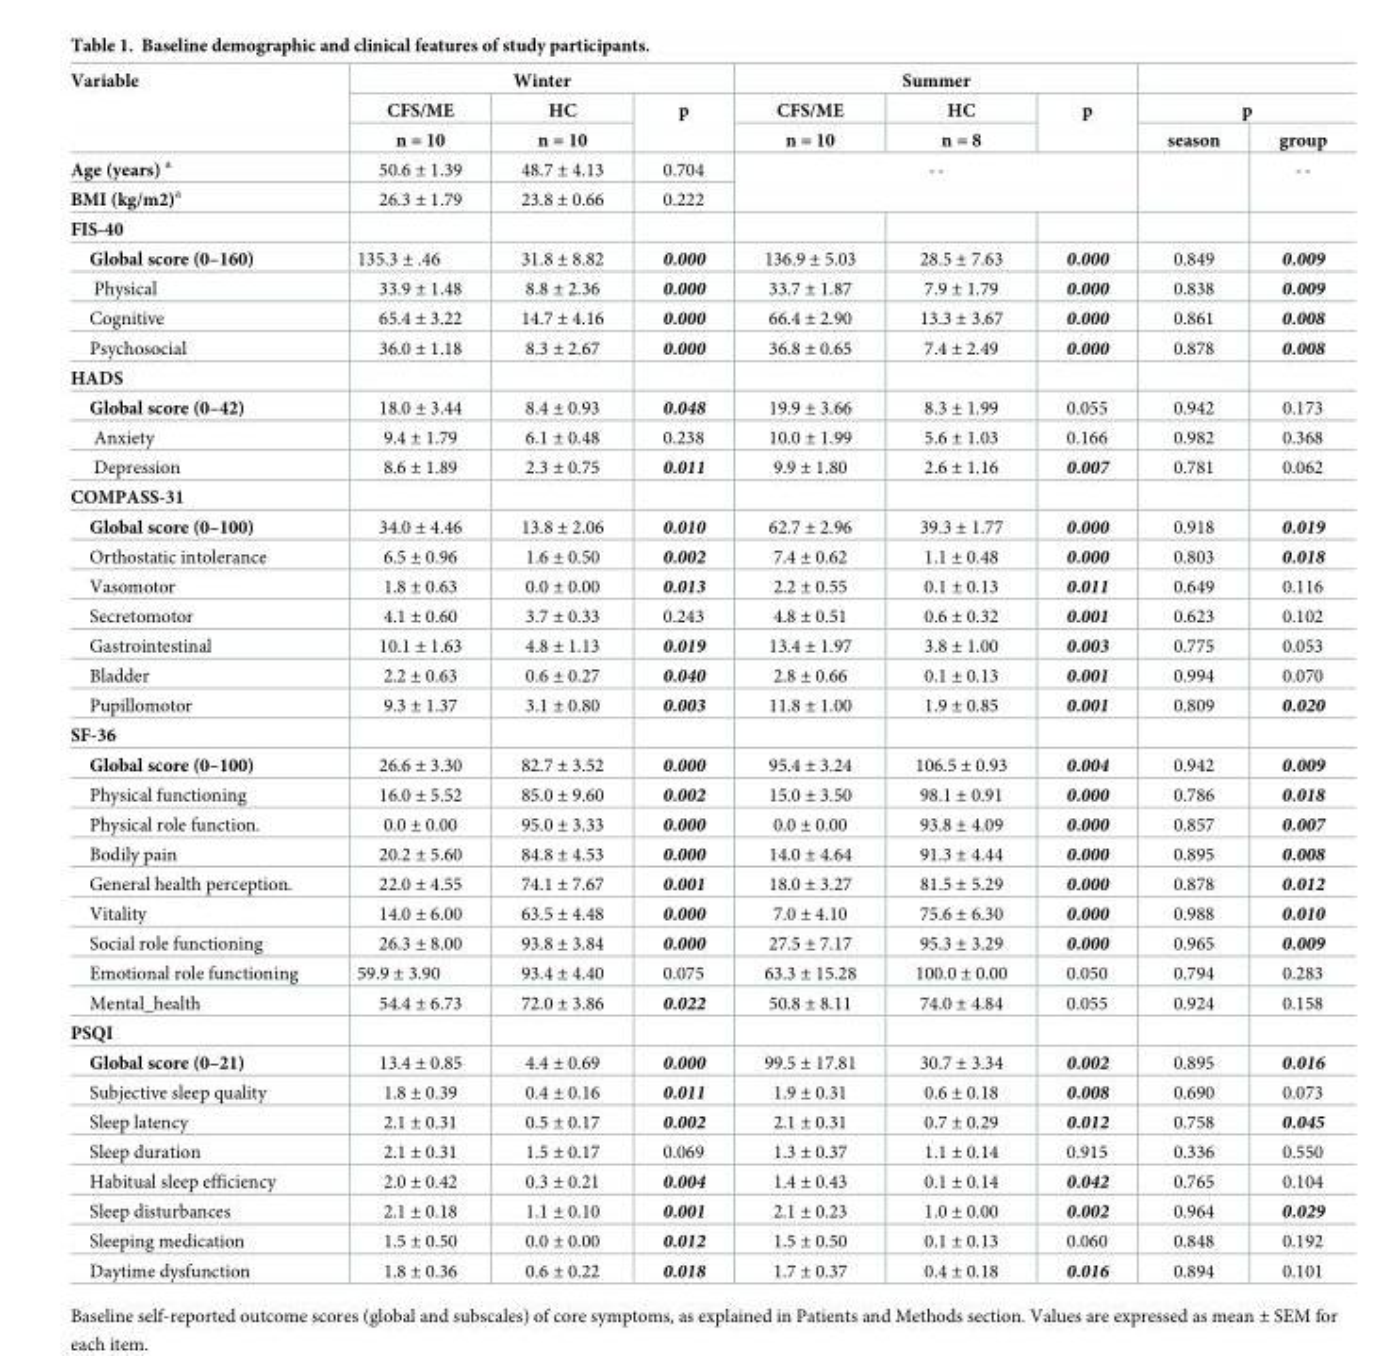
<table><thead><tr><td rowspan="3">Variable</td><td colspan="3">Winter</td><td colspan="3">Summer</td><td></td><td></td></tr><tr><td rowspan="2">CFS/ME n = 10</td><td rowspan="2">HC n = 10</td><td rowspan="2">p</td><td rowspan="2">CFS/ME n = 10</td><td rowspan="2">HC n = 8</td><td rowspan="2">p</td><td colspan="2">p</td></tr><tr><td>season</td><td>group</td></tr></thead><tbody><tr><td>Age (years) <sup>a</sup></td><td>50.6 ± 1.39</td><td>48.7 ± 4.13</td><td>0.704</td><td rowspan="2" colspan="3">--</td><td rowspan="2"></td><td rowspan="2">--</td></tr><tr><td>BMI (kg/m2)<sup>a</sup></td><td>26.3 ± 1.79</td><td>23.8 ± 0.66</td><td>0.222</td></tr><tr><td colspan="9">FIS-40</td></tr><tr><td>Global score (0–160)</td><td>135.3 ± .46</td><td>31.8 ± 8.82</td><td>0.000</td><td>136.9 ± 5.03</td><td>28.5 ± 7.63</td><td>0.000</td><td>0.849</td><td>0.009</td></tr><tr><td>Physical</td><td>33.9 ± 1.48</td><td>8.8 ± 2.36</td><td>0.000</td><td>33.7 ± 1.87</td><td>7.9 ± 1.79</td><td>0.000</td><td>0.838</td><td>0.009</td></tr><tr><td>Cognitive</td><td>65.4 ± 3.22</td><td>14.7 ± 4.16</td><td>0.000</td><td>66.4 ± 2.90</td><td>13.3 ± 3.67</td><td>0.000</td><td>0.861</td><td>0.008</td></tr><tr><td>Psychosocial</td><td>36.0 ± 1.18</td><td>8.3 ± 2.67</td><td>0.000</td><td>36.8 ± 0.65</td><td>7.4 ± 2.49</td><td>0.000</td><td>0.878</td><td>0.008</td></tr><tr><td colspan="9">HADS</td></tr><tr><td>Global score (0–42)</td><td>18.0 ± 3.44</td><td>8.4 ± 0.93</td><td>0.048</td><td>19.9 ± 3.66</td><td>8.3 ± 1.99</td><td>0.055</td><td>0.942</td><td>0.173</td></tr><tr><td>Anxiety</td><td>9.4 ± 1.79</td><td>6.1 ± 0.48</td><td>0.238</td><td>10.0 ± 1.99</td><td>5.6 ± 1.03</td><td>0.166</td><td>0.982</td><td>0.368</td></tr><tr><td>Depression</td><td>8.6 ± 1.89</td><td>2.3 ± 0.75</td><td>0.011</td><td>9.9 ± 1.80</td><td>2.6 ± 1.16</td><td>0.007</td><td>0.781</td><td>0.062</td></tr><tr><td colspan="9">COMPASS-31</td></tr><tr><td>Global score (0–100)</td><td>34.0 ± 4.46</td><td>13.8 ± 2.06</td><td>0.010</td><td>62.7 ± 2.96</td><td>39.3 ± 1.77</td><td>0.000</td><td>0.918</td><td>0.019</td></tr><tr><td>Orthostatic intolerance</td><td>6.5 ± 0.96</td><td>1.6 ± 0.50</td><td>0.002</td><td>7.4 ± 0.62</td><td>1.1 ± 0.48</td><td>0.000</td><td>0.803</td><td>0.018</td></tr><tr><td>Vasomotor</td><td>1.8 ± 0.63</td><td>0.0 ± 0.00</td><td>0.013</td><td>2.2 ± 0.55</td><td>0.1 ± 0.13</td><td>0.011</td><td>0.649</td><td>0.116</td></tr><tr><td>Secretomotor</td><td>4.1 ± 0.60</td><td>3.7 ± 0.33</td><td>0.243</td><td>4.8 ± 0.51</td><td>0.6 ± 0.32</td><td>0.001</td><td>0.623</td><td>0.102</td></tr><tr><td>Gastrointestinal</td><td>10.1 ± 1.63</td><td>4.8 ± 1.13</td><td>0.019</td><td>13.4 ± 1.97</td><td>3.8 ± 1.00</td><td>0.003</td><td>0.775</td><td>0.053</td></tr><tr><td>Bladder</td><td>2.2 ± 0.63</td><td>0.6 ± 0.27</td><td>0.040</td><td>2.8 ± 0.66</td><td>0.1 ± 0.13</td><td>0.001</td><td>0.994</td><td>0.070</td></tr><tr><td>Pupillomotor</td><td>9.3 ± 1.37</td><td>3.1 ± 0.80</td><td>0.003</td><td>11.8 ± 1.00</td><td>1.9 ± 0.85</td><td>0.001</td><td>0.809</td><td>0.020</td></tr><tr><td colspan="9">SF-36</td></tr><tr><td>Global score (0–100)</td><td>26.6 ± 3.30</td><td>82.7 ± 3.52</td><td>0.000</td><td>95.4 ± 3.24</td><td>106.5 ± 0.93</td><td>0.004</td><td>0.942</td><td>0.009</td></tr><tr><td>Physical functioning</td><td>16.0 ± 5.52</td><td>85.0 ± 9.60</td><td>0.002</td><td>15.0 ± 3.50</td><td>98.1 ± 0.91</td><td>0.000</td><td>0.786</td><td>0.018</td></tr><tr><td>Physical role function.</td><td>0.0 ± 0.00</td><td>95.0 ± 3.33</td><td>0.000</td><td>0.0 ± 0.00</td><td>93.8 ± 4.09</td><td>0.000</td><td>0.857</td><td>0.007</td></tr><tr><td>Bodily pain</td><td>20.2 ± 5.60</td><td>84.8 ± 4.53</td><td>0.000</td><td>14.0 ± 4.64</td><td>91.3 ± 4.44</td><td>0.000</td><td>0.895</td><td>0.008</td></tr><tr><td>General health perception.</td><td>22.0 ± 4.55</td><td>74.1 ± 7.67</td><td>0.001</td><td>18.0 ± 3.27</td><td>81.5 ± 5.29</td><td>0.000</td><td>0.878</td><td>0.012</td></tr><tr><td>Vitality</td><td>14.0 ± 6.00</td><td>63.5 ± 4.48</td><td>0.000</td><td>7.0 ± 4.10</td><td>75.6 ± 6.30</td><td>0.000</td><td>0.988</td><td>0.010</td></tr><tr><td>Social role functioning</td><td>26.3 ± 8.00</td><td>93.8 ± 3.84</td><td>0.000</td><td>27.5 ± 7.17</td><td>95.3 ± 3.29</td><td>0.000</td><td>0.965</td><td>0.009</td></tr><tr><td>Emotional role functioning</td><td>59.9 ± 3.90</td><td>93.4 ± 4.40</td><td>0.075</td><td>63.3 ± 15.28</td><td>100.0 ± 0.00</td><td>0.050</td><td>0.794</td><td>0.283</td></tr><tr><td>Mental_health</td><td>54.4 ± 6.73</td><td>72.0 ± 3.86</td><td>0.022</td><td>50.8 ± 8.11</td><td>74.0 ± 4.84</td><td>0.055</td><td>0.924</td><td>0.158</td></tr><tr><td colspan="9">PSQI</td></tr><tr><td>Global score (0–21)</td><td>13.4 ± 0.85</td><td>4.4 ± 0.69</td><td>0.000</td><td>99.5 ± 17.81</td><td>30.7 ± 3.34</td><td>0.002</td><td>0.895</td><td>0.016</td></tr><tr><td>Subjective sleep quality</td><td>1.8 ± 0.39</td><td>0.4 ± 0.16</td><td>0.011</td><td>1.9 ± 0.31</td><td>0.6 ± 0.18</td><td>0.008</td><td>0.690</td><td>0.073</td></tr><tr><td>Sleep latency</td><td>2.1 ± 0.31</td><td>0.5 ± 0.17</td><td>0.002</td><td>2.1 ± 0.31</td><td>0.7 ± 0.29</td><td>0.012</td><td>0.758</td><td>0.045</td></tr><tr><td>Sleep duration</td><td>2.1 ± 0.31</td><td>1.5 ± 0.17</td><td>0.069</td><td>1.3 ± 0.37</td><td>1.1 ± 0.14</td><td>0.915</td><td>0.336</td><td>0.550</td></tr><tr><td>Habitual sleep efficiency</td><td>2.0 ± 0.42</td><td>0.3 ± 0.21</td><td>0.004</td><td>1.4 ± 0.43</td><td>0.1 ± 0.14</td><td>0.042</td><td>0.765</td><td>0.104</td></tr><tr><td>Sleep disturbances</td><td>2.1 ± 0.18</td><td>1.1 ± 0.10</td><td>0.001</td><td>2.1 ± 0.23</td><td>1.0 ± 0.00</td><td>0.002</td><td>0.964</td><td>0.029</td></tr><tr><td>Sleeping medication</td><td>1.5 ± 0.50</td><td>0.0 ± 0.00</td><td>0.012</td><td>1.5 ± 0.50</td><td>0.1 ± 0.13</td><td>0.060</td><td>0.848</td><td>0.192</td></tr><tr><td>Daytime dysfunction</td><td>1.8 ± 0.36</td><td>0.6 ± 0.22</td><td>0.018</td><td>1.7 ± 0.37</td><td>0.4 ± 0.18</td><td>0.016</td><td>0.894</td><td>0.101</td></tr></tbody></table>